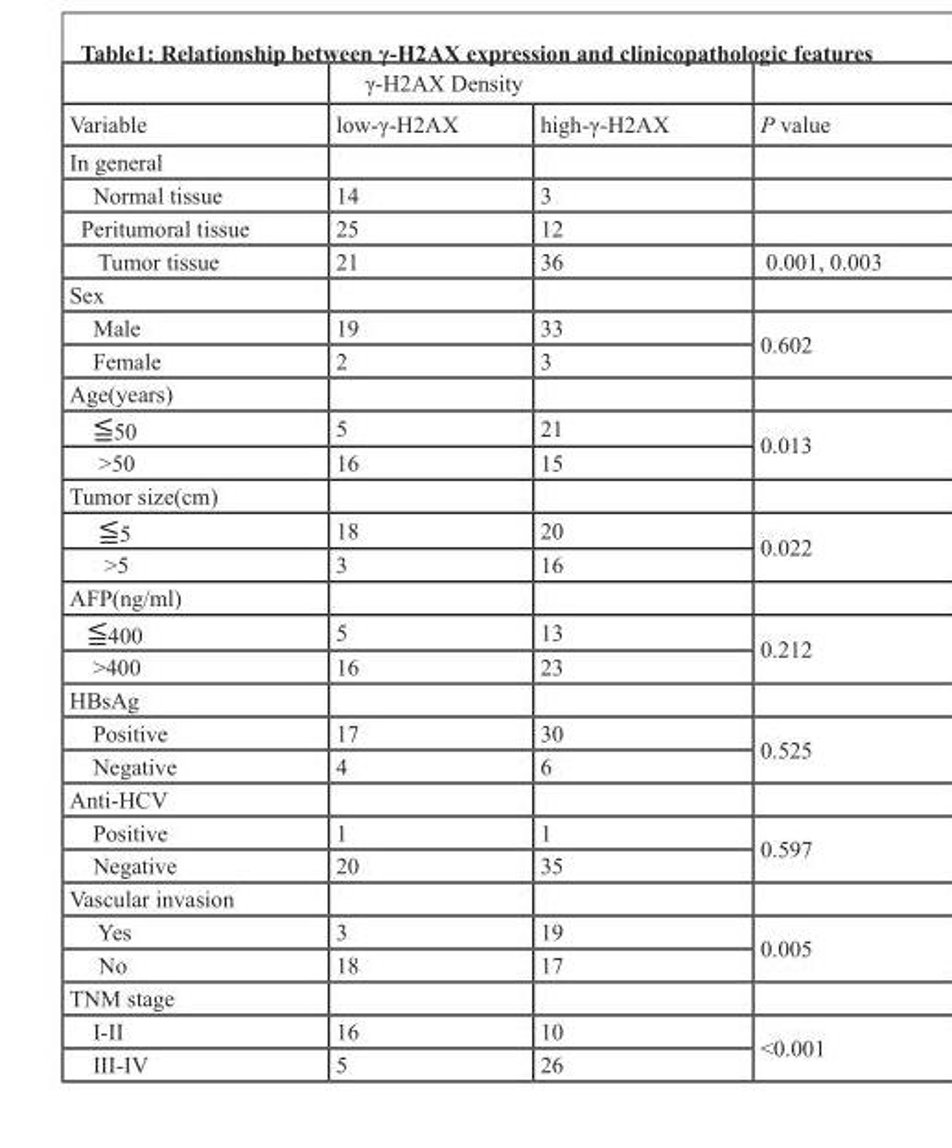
<table><thead><tr><td rowspan="2">Variable</td><td colspan="2">γ-H2AX Density</td><td rowspan="2">P value</td></tr><tr><td>low-γ-H2AX</td><td>high-γ-H2AX</td></tr></thead><tbody><tr><td colspan="4">In general</td></tr><tr><td>Normal tissue</td><td>14</td><td>3</td><td></td></tr><tr><td>Peritumoral tissue</td><td>25</td><td>12</td><td></td></tr><tr><td>Tumor tissue</td><td>21</td><td>36</td><td>0.001, 0.003</td></tr><tr><td colspan="4">Sex</td></tr><tr><td>Male</td><td>19</td><td>33</td><td rowspan="2">0.602</td></tr><tr><td>Female</td><td>2</td><td>3</td></tr><tr><td colspan="4">Age(years)</td></tr><tr><td>≦50</td><td>5</td><td>21</td><td rowspan="2">0.013</td></tr><tr><td>&gt;50</td><td>16</td><td>15</td></tr><tr><td colspan="4">Tumor size(cm)</td></tr><tr><td>≦5</td><td>18</td><td>20</td><td rowspan="2">0.022</td></tr><tr><td>&gt;5</td><td>3</td><td>16</td></tr><tr><td colspan="4">AFP(ng/ml)</td></tr><tr><td>≦400</td><td>5</td><td>13</td><td rowspan="2">0.212</td></tr><tr><td>&gt;400</td><td>16</td><td>23</td></tr><tr><td colspan="4">HBsAg</td></tr><tr><td>Positive</td><td>17</td><td>30</td><td rowspan="2">0.525</td></tr><tr><td>Negative</td><td>4</td><td>6</td></tr><tr><td colspan="4">Anti-HCV</td></tr><tr><td>Positive</td><td>1</td><td>1</td><td rowspan="2">0.597</td></tr><tr><td>Negative</td><td>20</td><td>35</td></tr><tr><td colspan="4">Vascular invasion</td></tr><tr><td>Yes</td><td>3</td><td>19</td><td rowspan="2">0.005</td></tr><tr><td>No</td><td>18</td><td>17</td></tr><tr><td colspan="4">TNM stage</td></tr><tr><td>I-II</td><td>16</td><td>10</td><td rowspan="2">&lt;0.001</td></tr><tr><td>III-IV</td><td>5</td><td>26</td></tr></tbody></table>